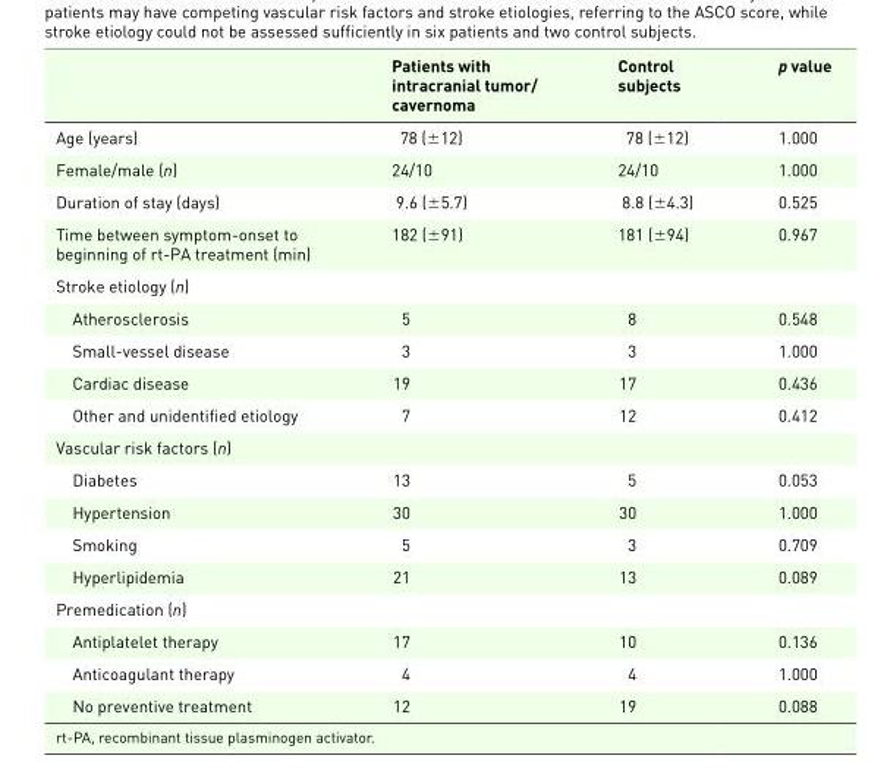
<table><thead><tr><td></td><td>Patients with intracranial tumor/ cavernoma</td><td>Control subjects</td><td>p value</td></tr></thead><tbody><tr><td>Age (years)</td><td>78 (±12)</td><td>78 (±12)</td><td>1.000</td></tr><tr><td>Female/male (n)</td><td>24/10</td><td>24/10</td><td>1.000</td></tr><tr><td>Duration of stay (days)</td><td>9.6 (±5.7)</td><td>8.8 (±4.3)</td><td>0.525</td></tr><tr><td>Time between symptom-onset to beginning of rt-PA treatment (min)</td><td>182 (±91)</td><td>181 (±94)</td><td>0.967</td></tr><tr><td colspan="4">Stroke etiology (n)</td></tr><tr><td>Atherosclerosis</td><td>5</td><td>8</td><td>0.548</td></tr><tr><td>Small-vessel disease</td><td>3</td><td>3</td><td>1.000</td></tr><tr><td>Cardiac disease</td><td>19</td><td>17</td><td>0.436</td></tr><tr><td>Other and unidentified etiology</td><td>7</td><td>12</td><td>0.412</td></tr><tr><td colspan="4">Vascular risk factors (n)</td></tr><tr><td>Diabetes</td><td>13</td><td>5</td><td>0.053</td></tr><tr><td>Hypertension</td><td>30</td><td>30</td><td>1.000</td></tr><tr><td>Smoking</td><td>5</td><td>3</td><td>0.709</td></tr><tr><td>Hyperlipidemia</td><td>21</td><td>13</td><td>0.089</td></tr><tr><td colspan="4">Premedication (n)</td></tr><tr><td>Antiplatelet therapy</td><td>17</td><td>10</td><td>0.136</td></tr><tr><td>Anticoagulant therapy</td><td>4</td><td>4</td><td>1.000</td></tr><tr><td>No preventive treatment</td><td>12</td><td>19</td><td>0.088</td></tr></tbody></table>